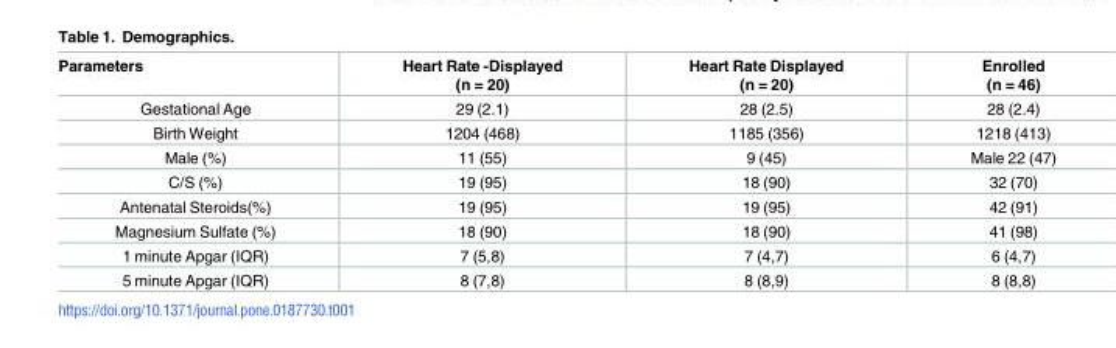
<table><thead><tr><td>Parameters</td><td>Heart Rate -Displayed (n = 20)</td><td>Heart Rate Displayed (n = 20)</td><td>Enrolled (n = 46)</td></tr></thead><tbody><tr><td>Gestational Age</td><td>29 (2.1)</td><td>28 (2.5)</td><td>28 (2.4)</td></tr><tr><td>Birth Weight</td><td>1204 (468)</td><td>1185 (356)</td><td>1218 (413)</td></tr><tr><td>Male (%)</td><td>11 (55)</td><td>9 (45)</td><td>Male 22 (47)</td></tr><tr><td>C/S (%)</td><td>19 (95)</td><td>18 (90)</td><td>32 (70)</td></tr><tr><td>Antenatal Steroids(%)</td><td>19 (95)</td><td>19 (95)</td><td>42 (91)</td></tr><tr><td>Magnesium Sulfate (%)</td><td>18 (90)</td><td>18 (90)</td><td>41 (98)</td></tr><tr><td>1 minute Apgar (IQR)</td><td>7 (5,8)</td><td>7 (4,7)</td><td>6 (4,7)</td></tr><tr><td>5 minute Apgar (IQR)</td><td>8 (7,8)</td><td>8 (8,9)</td><td>8 (8,8)</td></tr></tbody></table>